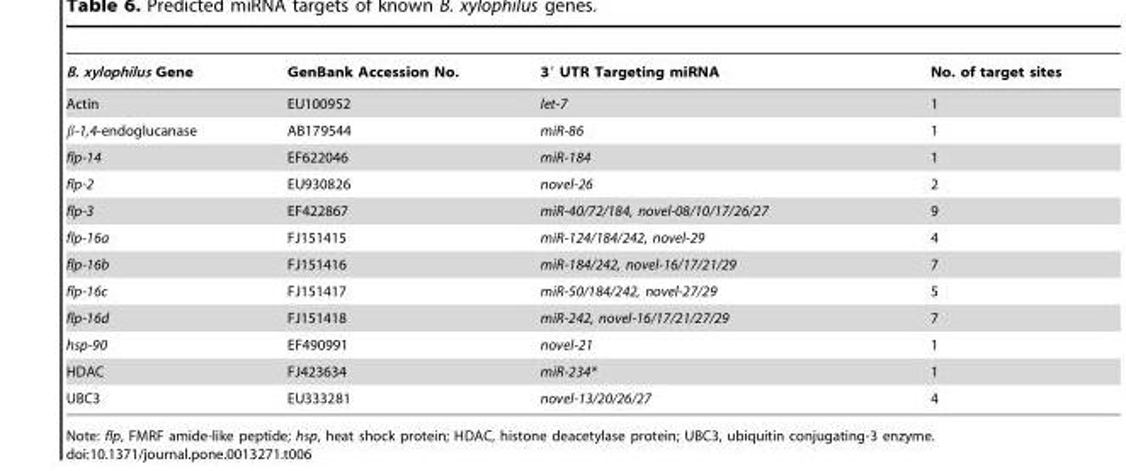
<table><thead><tr><td>B. xylophilus Gene</td><td>GenBank Accession No.</td><td>3′ UTR Targeting miRNA</td><td>No. of target sites</td></tr></thead><tbody><tr><td>Actin</td><td>EU100952</td><td>let-7</td><td>1</td></tr><tr><td>β-1,4-endoglucanase</td><td>AB179544</td><td>miR-86</td><td>1</td></tr><tr><td>flp-14</td><td>EF622046</td><td>miR-184</td><td>1</td></tr><tr><td>flp-2</td><td>EU930826</td><td>novel-26</td><td>2</td></tr><tr><td>flp-3</td><td>EF422867</td><td>miR-40/72/184, novel-08/10/17/26/27</td><td>9</td></tr><tr><td>flp-16a</td><td>FJ151415</td><td>miR-124/184/242, novel-29</td><td>4</td></tr><tr><td>flp-16b</td><td>FJ151416</td><td>miR-184/242, novel-16/17/21/29</td><td>7</td></tr><tr><td>flp-16c</td><td>FJ151417</td><td>miR-50/184/242, novel-27/29</td><td>5</td></tr><tr><td>flp-16d</td><td>FJ151418</td><td>miR-242, novel-16/17/21/27/29</td><td>7</td></tr><tr><td>hsp-90</td><td>EF490991</td><td>novel-21</td><td>1</td></tr><tr><td>HDAC</td><td>FJ423634</td><td>miR-234*</td><td>1</td></tr><tr><td>UBC3</td><td>EU333281</td><td>novel-13/20/26/27</td><td>4</td></tr></tbody></table>